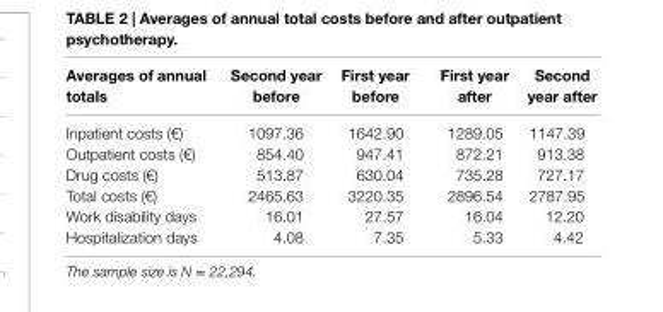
<table><thead><tr><td>averages of annual totals</td><td>second year before</td><td>First year before</td><td>First year after</td><td>second year after</td></tr></thead><tbody><tr><td>Inpatient costs (€)</td><td>1097.36</td><td>1642.90</td><td>1289.05</td><td>1147.39</td></tr><tr><td>Outpatient costs (€)</td><td>854.40</td><td>947.41</td><td>872.21</td><td>913.38</td></tr><tr><td>Drug costs (€)</td><td>513.87</td><td>630.04</td><td>735.28</td><td>727.17</td></tr><tr><td>Total costs (€)</td><td>2465.63</td><td>3220.35</td><td>2896.54</td><td>2787.95</td></tr><tr><td>Work disability days</td><td>16.01</td><td>27.57</td><td>16.04</td><td>12.20</td></tr><tr><td>Hospitalization days</td><td>4.08</td><td>7.35</td><td>5.33</td><td>4.42</td></tr></tbody></table>